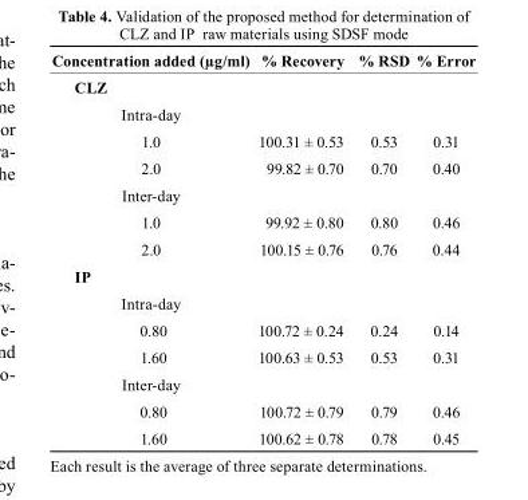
<table><thead><tr><td>Concentration added (µg/ml)</td><td>% recovery</td><td>% rsD</td><td>% Error</td></tr></thead><tbody><tr><td colspan="4">CLZ</td></tr><tr><td colspan="4">Intra-day</td></tr><tr><td>1.0</td><td>100.31 ± 0.53</td><td>0.53</td><td>0.31</td></tr><tr><td>2.0</td><td>99.82 ± 0.70</td><td>0.70</td><td>0.40</td></tr><tr><td colspan="4">Inter-day</td></tr><tr><td>1.0</td><td>99.92 ± 0.80</td><td>0.80</td><td>0.46</td></tr><tr><td>2.0</td><td>100.15 ± 0.76</td><td>0.76</td><td>0.44</td></tr><tr><td colspan="4">IP</td></tr><tr><td colspan="4">Intra-day</td></tr><tr><td>0.80</td><td>100.72 ± 0.24</td><td>0.24</td><td>0.14</td></tr><tr><td>1.60</td><td>100.63 ± 0.53</td><td>0.53</td><td>0.31</td></tr><tr><td colspan="4">Inter-day</td></tr><tr><td>0.80</td><td>100.72 ± 0.79</td><td>0.79</td><td>0.46</td></tr><tr><td>1.60</td><td>100.62 ± 0.78</td><td>0.78</td><td>0.45</td></tr></tbody></table>